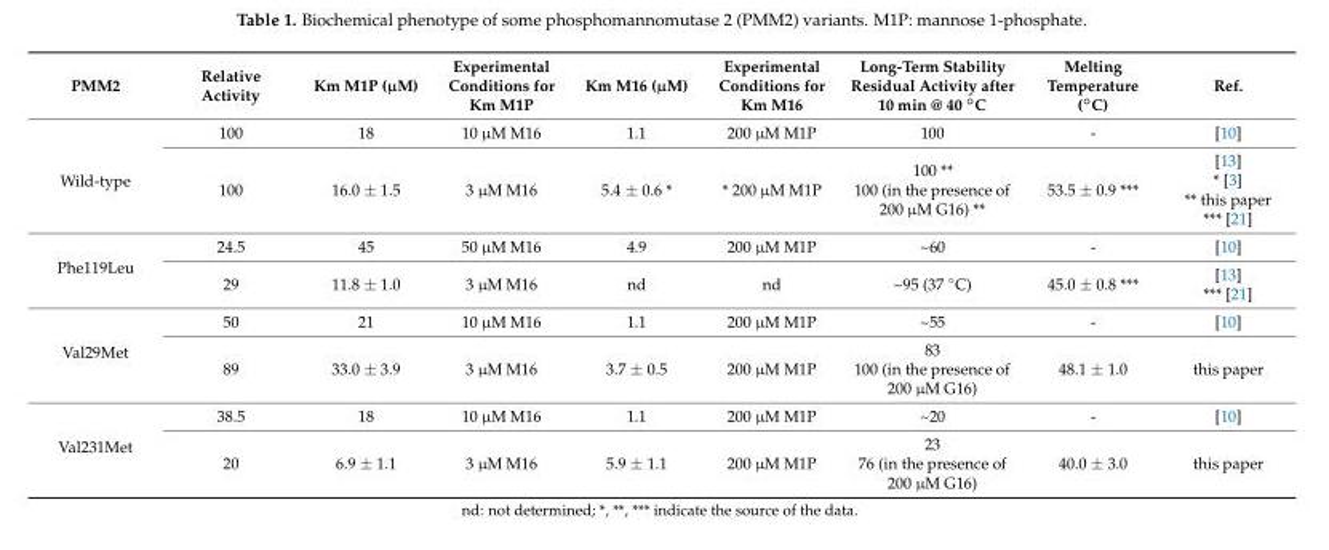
<table><thead><tr><td>PMM2</td><td>Relative Activity</td><td>Km M1P (µM)</td><td>Experimental Conditions for Km M1P</td><td>Km M16 (µM)</td><td>Experimental Conditions for Km M16</td><td>Long-Term Stability Residual Activity after 10 min @ 40 ◦C</td><td>Melting Temperature (◦C)</td><td>Ref.</td></tr></thead><tbody><tr><td rowspan="2">Wild-type</td><td>100</td><td>18</td><td>10 µM M16</td><td>1.1</td><td>200 µM M1P</td><td>100</td><td>-</td><td>[10]</td></tr><tr><td>100</td><td>16.0 ± 1.5</td><td>3 µM M16</td><td>5.4 ± 0.6 *</td><td>* 200 µM M1P</td><td>100 ** 100 (in the presence of 200 µM G16) **</td><td>53.5 ± 0.9 ***</td><td>[13] * [3] ** this paper *** [21]</td></tr><tr><td rowspan="2">Phe119Leu</td><td>24.5</td><td>45</td><td>50 µM M16</td><td>4.9</td><td>200 µM M1P</td><td>~60</td><td>-</td><td>[10]</td></tr><tr><td>29</td><td>11.8 ± 1.0</td><td>3 µM M16</td><td>nd</td><td>nd</td><td>~95 (37 ◦C)</td><td>45.0 ± 0.8 ***</td><td>[13] *** [21]</td></tr><tr><td rowspan="2">Val29Met</td><td>50</td><td>21</td><td>10 µM M16</td><td>1.1</td><td>200 µM M1P</td><td>~55</td><td>-</td><td>[10]</td></tr><tr><td>89</td><td>33.0 ± 3.9</td><td>3 µM M16</td><td>3.7 ± 0.5</td><td>200 µM M1P</td><td>83 100 (in the presence of 200 µM G16)</td><td>48.1 ± 1.0</td><td>this paper</td></tr><tr><td rowspan="2">Val231Met</td><td>38.5</td><td>18</td><td>10 µM M16</td><td>1.1</td><td>200 µM M1P</td><td>~20</td><td>-</td><td>[10]</td></tr><tr><td>20</td><td>6.9 ± 1.1</td><td>3 µM M16</td><td>5.9 ± 1.1</td><td>200 µM M1P</td><td>23 76 (in the presence of 200 µM G16)</td><td>40.0 ± 3.0</td><td>this paper</td></tr></tbody></table>